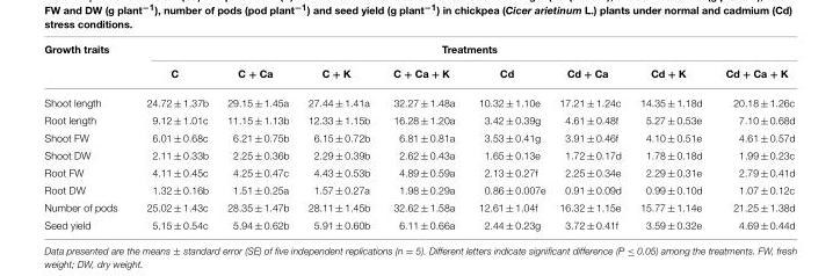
<table><thead><tr><td rowspan="2">Growth traits</td><td colspan="8">Treatments</td></tr><tr><td>C</td><td>C + Ca</td><td>C + K</td><td>C + Ca + K</td><td>Cd</td><td>Cd + Ca</td><td>Cd + K</td><td>Cd + Ca + K</td></tr></thead><tbody><tr><td>Shoot length</td><td>24.72 ± 1.37b</td><td>29.15 ± 1.45a</td><td>27.44 ± 1.41a</td><td>32.27 ± 1.48a</td><td>10.32 ± 1.10e</td><td>17.21 ± 1.24c</td><td>14.35 ± 1.18d</td><td>20.18 ± 1.26c</td></tr><tr><td>Root length</td><td>9.12 ± 1.01c</td><td>11.15 ± 1.13b</td><td>12.33 ± 1.15b</td><td>16.28 ± 1.20a</td><td>3.42 ± 0.39g</td><td>4.61 ± 0.48f</td><td>5.27 ± 0.53e</td><td>7.10 ± 0.68d</td></tr><tr><td>Shoot FW</td><td>6.01 ± 0.68c</td><td>6.21 ± 0.75b</td><td>6.15 ± 0.72b</td><td>6.81 ± 0.81a</td><td>3.53 ± 0.41g</td><td>3.91 ± 0.46f</td><td>4.10 ± 0.51e</td><td>4.61 ± 0.57d</td></tr><tr><td>Shoot DW</td><td>2.11 ± 0.33b</td><td>2.25 ± 0.36b</td><td>2.29 ± 0.39b</td><td>2.62 ± 0.43a</td><td>1.65 ± 0.13e</td><td>1.72 ± 0.17d</td><td>1.78 ± 0.18d</td><td>1.99 ± 0.23c</td></tr><tr><td>Root FW</td><td>4.11 ± 0.45c</td><td>4.25 ± 0.47c</td><td>4.43 ± 0.53b</td><td>4.89 ± 0.59a</td><td>2.13 ± 0.27f</td><td>2.25 ± 0.34e</td><td>2.29 ± 0.31e</td><td>2.79 ± 0.41d</td></tr><tr><td>Root DW</td><td>1.32 ± 0.16b</td><td>1.51 ± 0.25a</td><td>1.57 ± 0.27a</td><td>1.98 ± 0.29a</td><td>0.86 ± 0.007e</td><td>0.91 ± 0.09d</td><td>0.99 ± 0.10d</td><td>1.07 ± 0.12c</td></tr><tr><td>Number of pods</td><td>25.02 ± 1.43c</td><td>28.35 ± 1.47b</td><td>28.11 ± 1.45b</td><td>32.62 ± 1.58a</td><td>12.61 ± 1.04f</td><td>16.32 ± 1.15e</td><td>15.77 ± 1.14e</td><td>21.25 ± 1.38d</td></tr><tr><td>Seed yield</td><td>5.15 ± 0.54c</td><td>5.94 ± 0.62b</td><td>5.91 ± 0.60b</td><td>6.11 ± 0.66a</td><td>2.44 ± 0.23g</td><td>3.72 ± 0.41f</td><td>3.59 ± 0.32e</td><td>4.69 ± 0.44d</td></tr></tbody></table>